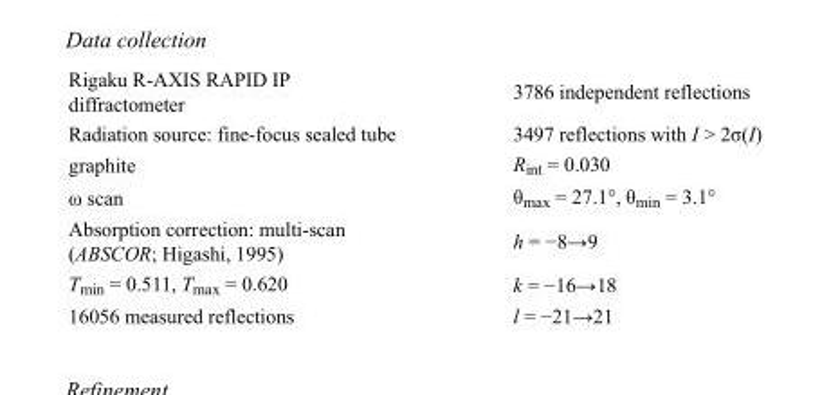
<table><tbody><tr><td>Rigaku R-AXIS RAPID IP diffractometer</td><td>3786 independent reflections</td></tr><tr><td>Radiation source: fine-focus sealed tube</td><td>3497 reflections with I &gt; 2σ(I)</td></tr><tr><td>graphite</td><td>R<sub>int</sub> = 0.030</td></tr><tr><td>ω scan</td><td>θ<sub>max</sub> = 27.1°, θ<sub>min</sub> = 3.1°</td></tr><tr><td>Absorption correction: multi-scan (ABSCOR; Higashi, 1995)</td><td>h = −8→9</td></tr><tr><td>T<sub>min</sub> = 0.511, T<sub>max</sub> = 0.620</td><td>k = −16→18</td></tr><tr><td>16056 measured reflections</td><td>l = −21→21</td></tr></tbody></table>